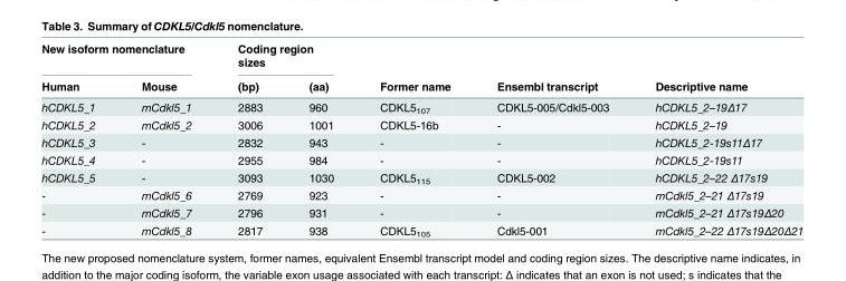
<table><thead><tr><td colspan="2">New isoform nomenclature</td><td colspan="2">Coding region sizes</td><td rowspan="2">Former name</td><td rowspan="2">Ensembl transcript</td><td rowspan="2">Descriptive name</td></tr><tr><td>Human</td><td>Mouse</td><td>(bp)</td><td>(aa)</td></tr></thead><tbody><tr><td>hCDKL5_1</td><td>mCdkl5_1</td><td>2883</td><td>960</td><td>CDKL5<sub>107</sub></td><td>CDKL5-005/Cdkl5-003</td><td>hCDKL5_2–19Δ17</td></tr><tr><td>hCDKL5_2</td><td>mCdkl5_2</td><td>3006</td><td>1001</td><td>CDKL5-16b</td><td>-</td><td>hCDKL5_2–19</td></tr><tr><td>hCDKL5_3</td><td>-</td><td>2832</td><td>943</td><td>-</td><td>-</td><td>hCDKL5_2-19s11Δ17</td></tr><tr><td>hCDKL5_4</td><td>-</td><td>2955</td><td>984</td><td>-</td><td>-</td><td>hCDKL5_2-19s11</td></tr><tr><td>hCDKL5_5</td><td>-</td><td>3093</td><td>1030</td><td>CDKL5<sub>115</sub></td><td>CDKL5-002</td><td>hCDKL5_2–22 Δ17s19</td></tr><tr><td>-</td><td>mCdkl5_6</td><td>2769</td><td>923</td><td>-</td><td>-</td><td>mCdkl5_2–21 Δ17s19</td></tr><tr><td>-</td><td>mCdkl5_7</td><td>2796</td><td>931</td><td>-</td><td>-</td><td>mCdkl5_2–21 Δ17s19Δ20</td></tr><tr><td>-</td><td>mCdkl5_8</td><td>2817</td><td>938</td><td>CDKL5<sub>105</sub></td><td>Cdkl5-001</td><td>mCdkl5_2–22 Δ17s19Δ20Δ21</td></tr></tbody></table>